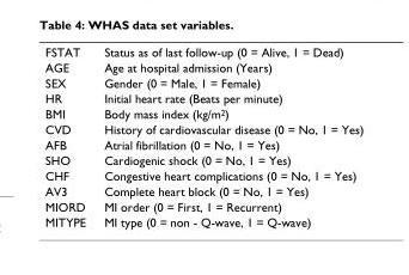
<table><tbody><tr><td>FSTAT</td><td>Status as of last follow-up (0 = Alive, 1 = Dead)</td></tr><tr><td>AGE</td><td>Age at hospital admission (Years)</td></tr><tr><td>SEX</td><td>Gender (0 = Male, 1 = Female)</td></tr><tr><td>HR</td><td>Initial heart rate (Beats per minute)</td></tr><tr><td>BMI</td><td>Body mass index (kg/m<sup>2</sup>)</td></tr><tr><td>CVD</td><td>History of cardiovascular disease (0 = No, 1 = Yes)</td></tr><tr><td>AFB</td><td>Atrial fibrillation (0 = No, 1 = Yes)</td></tr><tr><td>SHO</td><td>Cardiogenic shock (0 = No, 1 = Yes)</td></tr><tr><td>CHF</td><td>Congestive heart complications (0 = No, 1 = Yes)</td></tr><tr><td>AV3</td><td>Complete heart block (0 = No, 1 = Yes)</td></tr><tr><td>MIORD</td><td>MI order (0 = First, 1 = Recurrent)</td></tr><tr><td>MITYPE</td><td>MI type (0 = non - Q-wave, 1 = Q-wave)</td></tr></tbody></table>